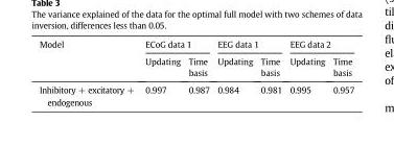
<table><thead><tr><td rowspan="2">Model</td><td colspan="2">ECoG data 1</td><td colspan="2">EEG data 1</td><td colspan="2">EEG data 2</td></tr><tr><td>Updating</td><td>Time basis</td><td>Updating</td><td>Time basis</td><td>Updating</td><td>Time basis</td></tr></thead><tbody><tr><td>Inhibitory + excitatory + endogenous</td><td>0.997</td><td>0.987</td><td>0.984</td><td>0.981</td><td>0.995</td><td>0.957</td></tr></tbody></table>